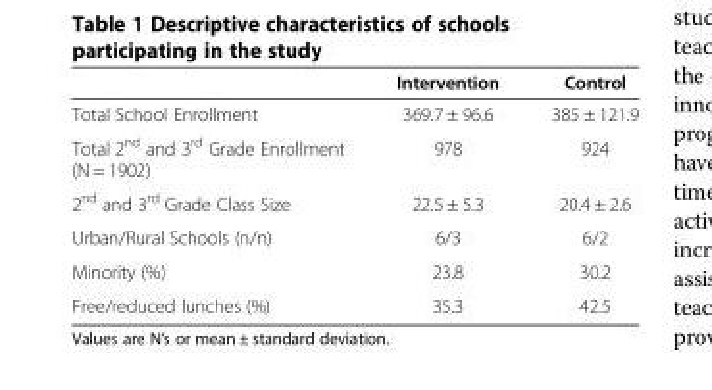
<table><thead><tr><td></td><td>Intervention</td><td>Control</td></tr></thead><tbody><tr><td>Total School Enrollment</td><td>369.7 ± 96.6</td><td>385 ± 121.9</td></tr><tr><td>Total 2<sup>nd</sup> and 3<sup>rd</sup> Grade Enrollment (N = 1902)</td><td>978</td><td>924</td></tr><tr><td>2<sup>nd</sup> and 3<sup>rd</sup> Grade Class Size</td><td>22.5 ± 5.3</td><td>20.4 ± 2.6</td></tr><tr><td>Urban/Rural Schools (n/n)</td><td>6/3</td><td>6/2</td></tr><tr><td>Minority (%)</td><td>23.8</td><td>30.2</td></tr><tr><td>Free/reduced lunches (%)</td><td>35.3</td><td>42.5</td></tr></tbody></table>